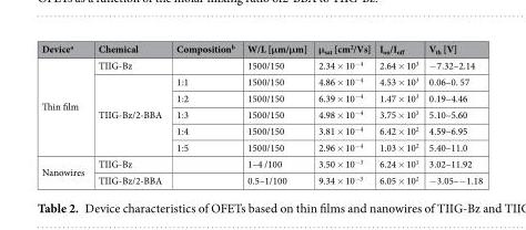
<table><thead><tr><td>Device<sup>a</sup></td><td>Chemical</td><td>Composition<sup>b</sup></td><td>W/L [μm/μm]</td><td>μ<sub>sat</sub> [cm<sup>2</sup>/Vs]</td><td>I<sub>on</sub>/I<sub>off</sub></td><td>V<sub>th</sub> [V]</td></tr></thead><tbody><tr><td rowspan="6">Thin film</td><td>TIIG-Bz</td><td></td><td>1500/150</td><td>2.34 × 10<sup>−4</sup></td><td>2.64 × 10<sup>3</sup></td><td>−7.32–2.14</td></tr><tr><td rowspan="5">TIIG-Bz/2-BBA</td><td>1:1</td><td>1500/150</td><td>4.86 × 10<sup>−4</sup></td><td>4.53 × 10<sup>3</sup></td><td>0.06–0. 57</td></tr><tr><td>1:2</td><td>1500/150</td><td>6.39 × 10<sup>−4</sup></td><td>1.47 × 10<sup>3</sup></td><td>0.19–4.46</td></tr><tr><td>1:3</td><td>1500/150</td><td>4.98 × 10<sup>−4</sup></td><td>3.75 × 10<sup>3</sup></td><td>5.10–5.60</td></tr><tr><td>1:4</td><td>1500/150</td><td>3.81 × 10<sup>−4</sup></td><td>6.42 × 10<sup>2</sup></td><td>4.59–6.95</td></tr><tr><td>1:5</td><td>1500/150</td><td>2.96 × 10<sup>−4</sup></td><td>1.03 × 10<sup>2</sup></td><td>5.40–11.0</td></tr><tr><td rowspan="2">Nanowires</td><td>TIIG-Bz</td><td></td><td>1–4 /100</td><td>3.50 × 10<sup>−3</sup></td><td>6.24 × 10<sup>1</sup></td><td>3.02–11.92</td></tr><tr><td>TIIG-Bz/2-BBA</td><td></td><td>0.5–1/100</td><td>9.34 × 10<sup>−3</sup></td><td>6.05 × 10<sup>2</sup></td><td>−3.05–−1.18</td></tr></tbody></table>